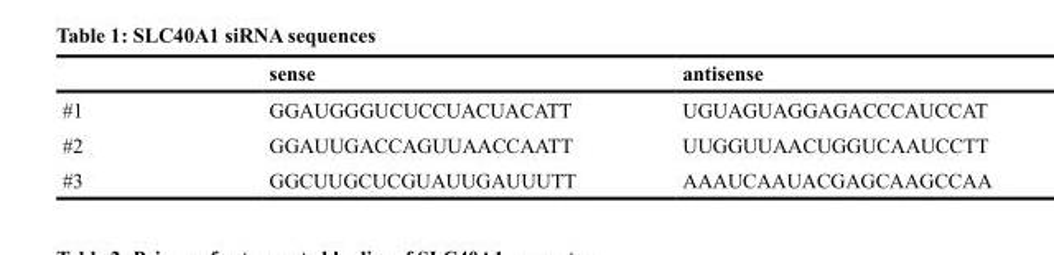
<table><thead><tr><td></td><td>sense</td><td>antisense</td></tr></thead><tbody><tr><td>#1</td><td>GGAUGGGUCUCCUACUACATT</td><td>UGUAGUAGGAGACCCAUCCAT</td></tr><tr><td>#2</td><td>GGAUUGACCAGUUAACCAATT</td><td>UUGGUUAACUGGUCAAUCCTT</td></tr><tr><td>#3</td><td>GGCUUGCUCGUAUUGAUUUTT</td><td>AAAUCAAUACGAGCAAGCCAA</td></tr></tbody></table>